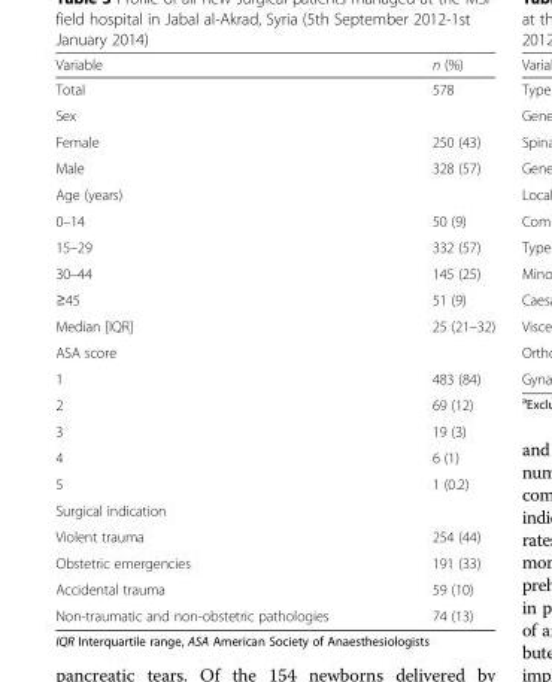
<table><thead><tr><td>Variable</td><td>n (%)</td></tr></thead><tbody><tr><td>Total</td><td>578</td></tr><tr><td colspan="2">Sex</td></tr><tr><td>Female</td><td>250 (43)</td></tr><tr><td>Male</td><td>328 (57)</td></tr><tr><td colspan="2">Age (years)</td></tr><tr><td>0–14</td><td>50 (9)</td></tr><tr><td>15–29</td><td>332 (57)</td></tr><tr><td>30–44</td><td>145 (25)</td></tr><tr><td>≥45</td><td>51 (9)</td></tr><tr><td>Median [IQR]</td><td>25 (21–32)</td></tr><tr><td colspan="2">ASA score</td></tr><tr><td>1</td><td>483 (84)</td></tr><tr><td>2</td><td>69 (12)</td></tr><tr><td>3</td><td>19 (3)</td></tr><tr><td>4</td><td>6 (1)</td></tr><tr><td>5</td><td>1 (0.2)</td></tr><tr><td colspan="2">Surgical indication</td></tr><tr><td>Violent trauma</td><td>254 (44)</td></tr><tr><td>Obstetric emergencies</td><td>191 (33)</td></tr><tr><td>Accidental trauma</td><td>59 (10)</td></tr><tr><td>Non-traumatic and non-obstetric pathologies</td><td>74 (13)</td></tr></tbody></table>